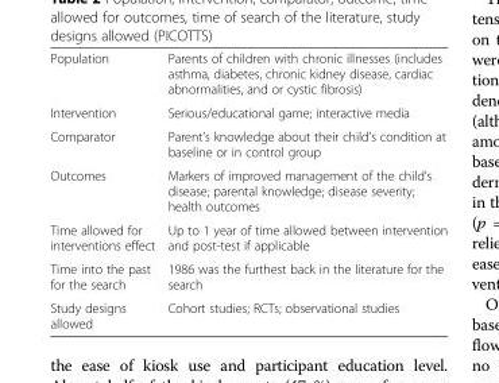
<table><tbody><tr><td>Population</td><td>Parents of children with chronic illnesses (includes asthma, diabetes, chronic kidney disease, cardiac abnormalities, and or cystic fibrosis)</td></tr><tr><td>Intervention</td><td>Serious/educational game; interactive media</td></tr><tr><td>Comparator</td><td>Parent’s knowledge about their child’s condition at baseline or in control group</td></tr><tr><td>Outcomes</td><td>Markers of improved management of the child’s disease; parental knowledge; disease severity; health outcomes</td></tr><tr><td>Time allowed for interventions effect</td><td>Up to 1 year of time allowed between intervention and post-test if applicable</td></tr><tr><td>Time into the past for the search</td><td>1986 was the furthest back in the literature for the search</td></tr><tr><td>Study designs allowed</td><td>Cohort studies; RCTs; observational studies</td></tr></tbody></table>